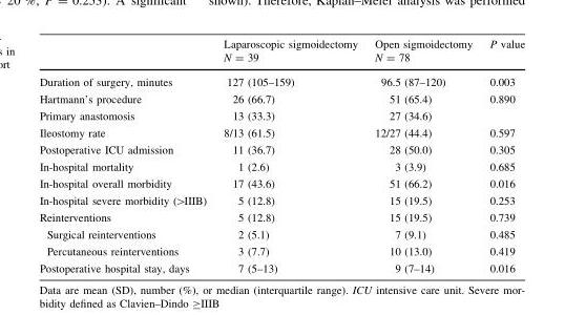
<table><thead><tr><td></td><td>Laparoscopic sigmoidectomy N = 39</td><td>Open sigmoidectomy N = 78</td><td>P value</td></tr></thead><tbody><tr><td>Duration of surgery, minutes</td><td>127 (105–159)</td><td>96.5 (87–120)</td><td>0.003</td></tr><tr><td>Hartmann’s procedure</td><td>26 (66.7)</td><td>51 (65.4)</td><td rowspan="2">0.890</td></tr><tr><td>Primary anastomosis</td><td>13 (33.3)</td><td>27 (34.6)</td></tr><tr><td>Ileostomy rate</td><td>8/13 (61.5)</td><td>12/27 (44.4)</td><td>0.597</td></tr><tr><td>Postoperative ICU admission</td><td>11 (36.7)</td><td>28 (50.0)</td><td>0.305</td></tr><tr><td>In-hospital mortality</td><td>1 (2.6)</td><td>3 (3.9)</td><td>0.685</td></tr><tr><td>In-hospital overall morbidity</td><td>17 (43.6)</td><td>51 (66.2)</td><td>0.016</td></tr><tr><td>In-hospital severe morbidity (&gt;IIIB)</td><td>5 (12.8)</td><td>15 (19.5)</td><td>0.253</td></tr><tr><td>Reinterventions</td><td>5 (12.8)</td><td>15 (19.5)</td><td>0.739</td></tr><tr><td>Surgical reinterventions</td><td>2 (5.1)</td><td>7 (9.1)</td><td>0.485</td></tr><tr><td>Percutaneous reinterventions</td><td>3 (7.7)</td><td>10 (13.0)</td><td>0.419</td></tr><tr><td>Postoperative hospital stay, days</td><td>7 (5–13)</td><td>9 (7–14)</td><td>0.016</td></tr></tbody></table>